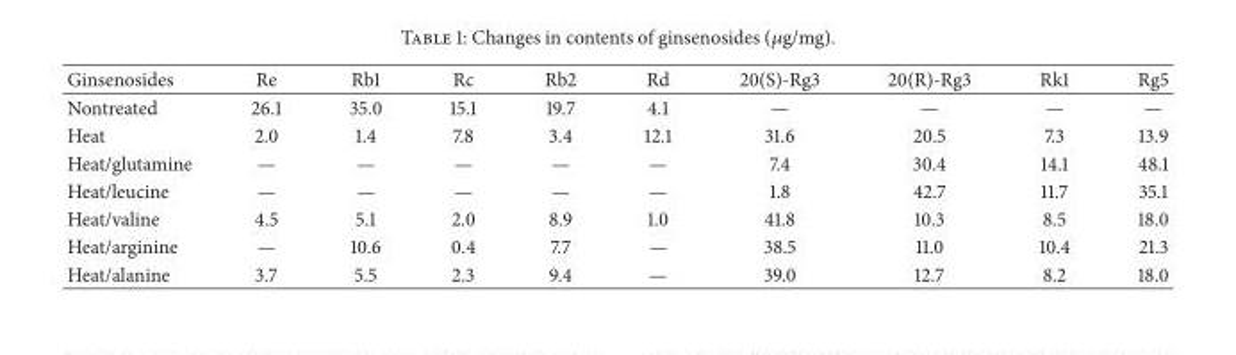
<table><thead><tr><td>Ginsenosides</td><td>Re</td><td>Rb1</td><td>Rc</td><td>Rb2</td><td>Rd</td><td>20(S)-Rg3</td><td>20(R)-Rg3</td><td>Rk1</td><td>Rg5</td></tr></thead><tbody><tr><td>Nontreated</td><td>26.1</td><td>35.0</td><td>15.1</td><td>19.7</td><td>4.1</td><td>—</td><td>—</td><td>—</td><td>—</td></tr><tr><td>Heat</td><td>2.0</td><td>1.4</td><td>7.8</td><td>3.4</td><td>12.1</td><td>31.6</td><td>20.5</td><td>7.3</td><td>13.9</td></tr><tr><td>Heat/glutamine</td><td>—</td><td>—</td><td>—</td><td>—</td><td>—</td><td>7.4</td><td>30.4</td><td>14.1</td><td>48.1</td></tr><tr><td>Heat/leucine</td><td>—</td><td>—</td><td>—</td><td>—</td><td>—</td><td>1.8</td><td>42.7</td><td>11.7</td><td>35.1</td></tr><tr><td>Heat/valine</td><td>4.5</td><td>5.1</td><td>2.0</td><td>8.9</td><td>1.0</td><td>41.8</td><td>10.3</td><td>8.5</td><td>18.0</td></tr><tr><td>Heat/arginine</td><td>—</td><td>10.6</td><td>0.4</td><td>7.7</td><td>—</td><td>38.5</td><td>11.0</td><td>10.4</td><td>21.3</td></tr><tr><td>Heat/alanine</td><td>3.7</td><td>5.5</td><td>2.3</td><td>9.4</td><td>—</td><td>39.0</td><td>12.7</td><td>8.2</td><td>18.0</td></tr></tbody></table>